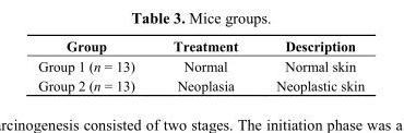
<table><thead><tr><td>Group</td><td>Treatment</td><td>Description</td></tr></thead><tbody><tr><td>Group 1 (n = 13)</td><td>Normal</td><td>Normal skin</td></tr><tr><td>Group 2 (n = 13)</td><td>Neoplasia</td><td>Neoplastic skin</td></tr></tbody></table>